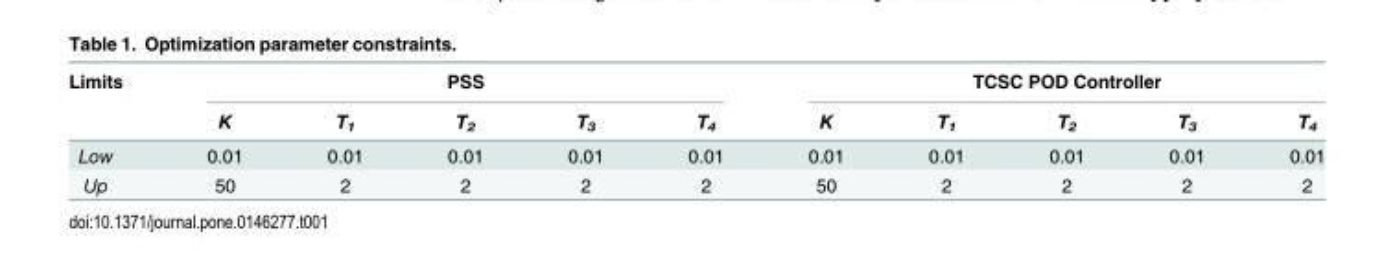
<table><thead><tr><td rowspan="2">Limits</td><td colspan="5">PSS</td><td colspan="5">TCSC POD Controller</td></tr><tr><td>K</td><td>T<sub>1</sub></td><td>T<sub>2</sub></td><td>T<sub>3</sub></td><td>T<sub>4</sub></td><td>K</td><td>T<sub>1</sub></td><td>T<sub>2</sub></td><td>T<sub>3</sub></td><td>T<sub>4</sub></td></tr></thead><tbody><tr><td>Low</td><td>0.01</td><td>0.01</td><td>0.01</td><td>0.01</td><td>0.01</td><td>0.01</td><td>0.01</td><td>0.01</td><td>0.01</td><td>0.01</td></tr><tr><td>Up</td><td>50</td><td>2</td><td>2</td><td>2</td><td>2</td><td>50</td><td>2</td><td>2</td><td>2</td><td>2</td></tr></tbody></table>